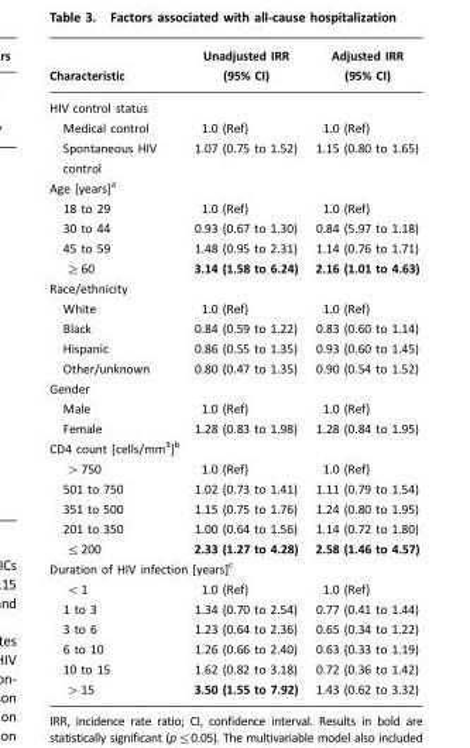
<table><thead><tr><td>Characteristic</td><td>Unadjusted IRR (95% CI)</td><td>Adjusted IRR (95% CI)</td></tr></thead><tbody><tr><td colspan="3">HIV control status</td></tr><tr><td>Medical control</td><td>1.0 (Ref)</td><td>1.0 (Ref)</td></tr><tr><td>Spontaneous HIV control</td><td>1.07 (0.75 to 1.52)</td><td>1.15 (0.80 to 1.65)</td></tr><tr><td colspan="3">Age [years]<sup>a</sup></td></tr><tr><td>18 to 29</td><td>1.0 (Ref)</td><td>1.0 (Ref)</td></tr><tr><td>30 to 44</td><td>0.93 (0.67 to 1.30)</td><td>0.84 (5.97 to 1.18)</td></tr><tr><td>45 to 59</td><td>1.48 (0.95 to 2.31)</td><td>1.14 (0.76 to 1.71)</td></tr><tr><td>≥60</td><td>3.14 (1.58 to 6.24)</td><td>2.16 (1.01 to 4.63)</td></tr><tr><td colspan="3">Race/ethnicity</td></tr><tr><td>White</td><td>1.0 (Ref)</td><td>1.0 (Ref)</td></tr><tr><td>Black</td><td>0.84 (0.59 to 1.22)</td><td>0.83 (0.60 to 1.14)</td></tr><tr><td>Hispanic</td><td>0.86 (0.55 to 1.35)</td><td>0.93 (0.60 to 1.45)</td></tr><tr><td>Other/unknown</td><td>0.80 (0.47 to 1.35)</td><td>0.90 (0.54 to 1.52)</td></tr><tr><td colspan="3">Gender</td></tr><tr><td>Male</td><td>1.0 (Ref)</td><td>1.0 (Ref)</td></tr><tr><td>Female</td><td>1.28 (0.83 to 1.98)</td><td>1.28 (0.84 to 1.95)</td></tr><tr><td colspan="3">CD4 count [cells/mm<sup>3</sup>]<sup>b</sup></td></tr><tr><td>&gt;750</td><td>1.0 (Ref)</td><td>1.0 (Ref)</td></tr><tr><td>501 to 750</td><td>1.02 (0.73 to 1.41)</td><td>1.11 (0.79 to 1.54)</td></tr><tr><td>351 to 500</td><td>1.15 (0.75 to 1.76)</td><td>1.24 (0.80 to 1.95)</td></tr><tr><td>201 to 350</td><td>1.00 (0.64 to 1.56)</td><td>1.14 (0.72 to 1.80)</td></tr><tr><td>≤200</td><td>2.33 (1.27 to 4.28)</td><td>2.58 (1.46 to 4.57)</td></tr><tr><td colspan="3">Duration of HIV infection [years]<sup>c</sup></td></tr><tr><td>&lt;1</td><td>1.0 (Ref)</td><td>1.0 (Ref)</td></tr><tr><td>1 to 3</td><td>1.34 (0.70 to 2.54)</td><td>0.77 (0.41 to 1.44)</td></tr><tr><td>3 to 6</td><td>1.23 (0.64 to 2.36)</td><td>0.65 (0.34 to 1.22)</td></tr><tr><td>6 to 10</td><td>1.26 (0.66 to 2.40)</td><td>0.63 (0.33 to 1.19)</td></tr><tr><td>10 to 15</td><td>1.62 (0.82 to 3.18)</td><td>0.72 (0.36 to 1.42)</td></tr><tr><td>&gt;15</td><td>3.50 (1.55 to 7.92)</td><td>1.43 (0.62 to 3.32)</td></tr></tbody></table>